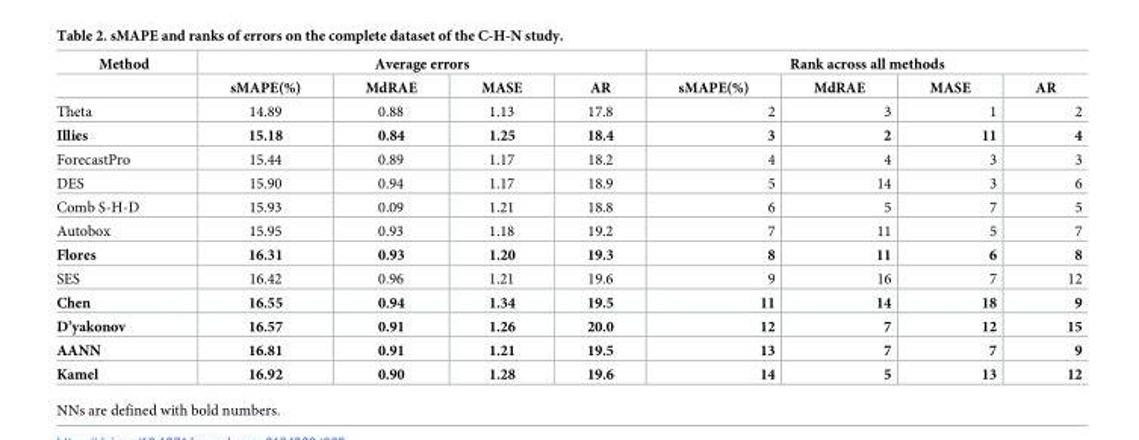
<table><thead><tr><td rowspan="2">Method</td><td colspan="4">Average errors</td><td colspan="4">Rank across all methods</td></tr><tr><td>sMAPE(%)</td><td>MdRAE</td><td>MASE</td><td>AR</td><td>sMAPE(%)</td><td>MdRAE</td><td>MASE</td><td>AR</td></tr></thead><tbody><tr><td>Theta</td><td>14.89</td><td>0.88</td><td>1.13</td><td>17.8</td><td>2</td><td>3</td><td>1</td><td>2</td></tr><tr><td>Illies</td><td>15.18</td><td>0.84</td><td>1.25</td><td>18.4</td><td>3</td><td>2</td><td>11</td><td>4</td></tr><tr><td>ForecastPro</td><td>15.44</td><td>0.89</td><td>1.17</td><td>18.2</td><td>4</td><td>4</td><td>3</td><td>3</td></tr><tr><td>DES</td><td>15.90</td><td>0.94</td><td>1.17</td><td>18.9</td><td>5</td><td>14</td><td>3</td><td>6</td></tr><tr><td>Comb S-H-D</td><td>15.93</td><td>0.09</td><td>1.21</td><td>18.8</td><td>6</td><td>5</td><td>7</td><td>5</td></tr><tr><td>Autobox</td><td>15.95</td><td>0.93</td><td>1.18</td><td>19.2</td><td>7</td><td>11</td><td>5</td><td>7</td></tr><tr><td>Flores</td><td>16.31</td><td>0.93</td><td>1.20</td><td>19.3</td><td>8</td><td>11</td><td>6</td><td>8</td></tr><tr><td>SES</td><td>16.42</td><td>0.96</td><td>1.21</td><td>19.6</td><td>9</td><td>16</td><td>7</td><td>12</td></tr><tr><td>Chen</td><td>16.55</td><td>0.94</td><td>1.34</td><td>19.5</td><td>11</td><td>14</td><td>18</td><td>9</td></tr><tr><td>D’yakonov</td><td>16.57</td><td>0.91</td><td>1.26</td><td>20.0</td><td>12</td><td>7</td><td>12</td><td>15</td></tr><tr><td>AANN</td><td>16.81</td><td>0.91</td><td>1.21</td><td>19.5</td><td>13</td><td>7</td><td>7</td><td>9</td></tr><tr><td>Kamel</td><td>16.92</td><td>0.90</td><td>1.28</td><td>19.6</td><td>14</td><td>5</td><td>13</td><td>12</td></tr></tbody></table>